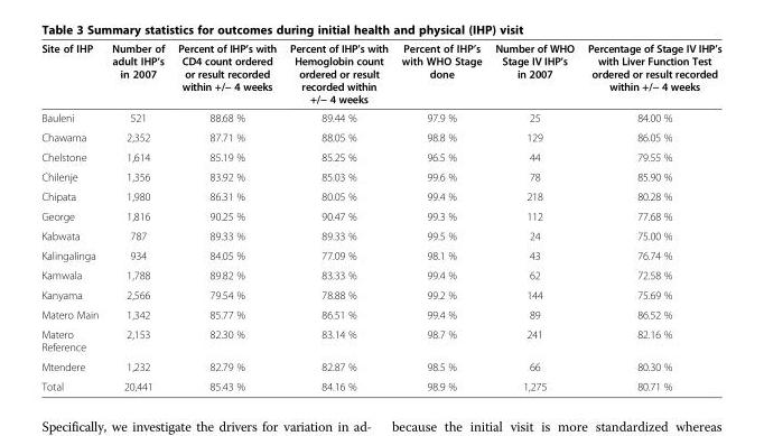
<table><thead><tr><td>Site of IHP</td><td>Number of adult IHP’s in 2007</td><td>Percent of IHP’s with CD4 count ordered or result recorded within +/− 4 weeks</td><td>Percent of IHP’s with Hemoglobin count ordered or result recorded within +/− 4 weeks</td><td>Percent of IHP’s with WHO Stage done</td><td>Number of WHO Stage IV IHP’s in 2007</td><td>Percentage of Stage IV IHP’s with Liver Function Test ordered or result recorded within +/− 4 weeks</td></tr></thead><tbody><tr><td>Bauleni</td><td>521</td><td>88.68 %</td><td>89.44 %</td><td>97.9 %</td><td>25</td><td>84.00 %</td></tr><tr><td>Chawama</td><td>2,352</td><td>87.71 %</td><td>88.05 %</td><td>98.8 %</td><td>129</td><td>86.05 %</td></tr><tr><td>Chelstone</td><td>1,614</td><td>85.19 %</td><td>85.25 %</td><td>96.5 %</td><td>44</td><td>79.55 %</td></tr><tr><td>Chilenje</td><td>1,356</td><td>83.92 %</td><td>85.03 %</td><td>99.6 %</td><td>78</td><td>85.90 %</td></tr><tr><td>Chipata</td><td>1,980</td><td>86.31 %</td><td>80.05 %</td><td>99.4 %</td><td>218</td><td>80.28 %</td></tr><tr><td>George</td><td>1,816</td><td>90.25 %</td><td>90.47 %</td><td>99.3 %</td><td>112</td><td>77.68 %</td></tr><tr><td>Kabwata</td><td>787</td><td>89.33 %</td><td>89.33 %</td><td>99.5 %</td><td>24</td><td>75.00 %</td></tr><tr><td>Kalingalinga</td><td>934</td><td>84.05 %</td><td>77.09 %</td><td>98.1 %</td><td>43</td><td>76.74 %</td></tr><tr><td>Kamwala</td><td>1,788</td><td>89.82 %</td><td>83.33 %</td><td>99.4 %</td><td>62</td><td>72.58 %</td></tr><tr><td>Kanyama</td><td>2,566</td><td>79.54 %</td><td>78.88 %</td><td>99.2 %</td><td>144</td><td>75.69 %</td></tr><tr><td>Matero Main</td><td>1,342</td><td>85.77 %</td><td>86.51 %</td><td>99.4 %</td><td>89</td><td>86.52 %</td></tr><tr><td>Matero Reference</td><td>2,153</td><td>82.30 %</td><td>83.14 %</td><td>98.7 %</td><td>241</td><td>82.16 %</td></tr><tr><td>Mtendere</td><td>1,232</td><td>82.79 %</td><td>82.87 %</td><td>98.5 %</td><td>66</td><td>80.30 %</td></tr><tr><td>Total</td><td>20,441</td><td>85.43 %</td><td>84.16 %</td><td>98.9 %</td><td>1,275</td><td>80.71 %</td></tr></tbody></table>